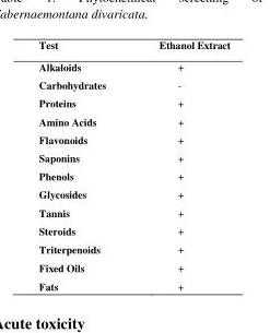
<table><thead><tr><td>Test</td><td>Ethanol Extract</td></tr></thead><tbody><tr><td>Alkaloids</td><td>+</td></tr><tr><td>Carbohydrates</td><td>-</td></tr><tr><td>Proteins</td><td>+</td></tr><tr><td>Amino Acids</td><td>+</td></tr><tr><td>Flavonoids</td><td>+</td></tr><tr><td>Saponins</td><td>+</td></tr><tr><td>Phenols</td><td>+</td></tr><tr><td>Glycosides</td><td>+</td></tr><tr><td>Tannis</td><td>+</td></tr><tr><td>Steroids</td><td>+</td></tr><tr><td>Triterpenoids</td><td>+</td></tr><tr><td>Fixed Oils</td><td>+</td></tr><tr><td>Fats</td><td>+</td></tr></tbody></table>